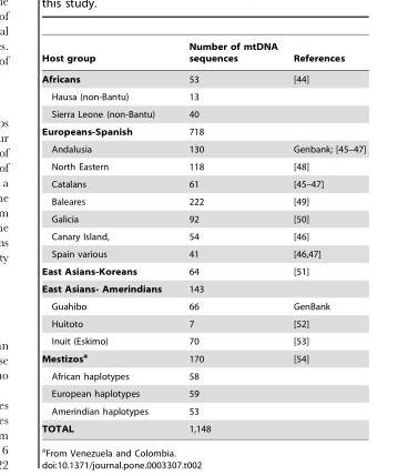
<table><thead><tr><td>Host group</td><td>Number of mtDNA sequences</td><td>References</td></tr></thead><tbody><tr><td>Africans</td><td>53</td><td>[44]</td></tr><tr><td>Hausa (non-Bantu)</td><td>13</td><td></td></tr><tr><td>Sierra Leone (non-Bantu)</td><td>40</td><td></td></tr><tr><td>Europeans-Spanish</td><td>718</td><td></td></tr><tr><td>Andalusia</td><td>130</td><td>Genbank; [45–47]</td></tr><tr><td>North Eastern</td><td>118</td><td>[48]</td></tr><tr><td>Catalans</td><td>61</td><td>[45–47]</td></tr><tr><td>Baleares</td><td>222</td><td>[49]</td></tr><tr><td>Galicia</td><td>92</td><td>[50]</td></tr><tr><td>Canary Island,</td><td>54</td><td>[46]</td></tr><tr><td>Spain various</td><td>41</td><td>[46,47]</td></tr><tr><td>East Asians-Koreans</td><td>64</td><td>[51]</td></tr><tr><td>East Asians- Amerindians</td><td>143</td><td></td></tr><tr><td>Guahibo</td><td>66</td><td>GenBank</td></tr><tr><td>Huitoto</td><td>7</td><td>[52]</td></tr><tr><td>Inuit (Eskimo)</td><td>70</td><td>[53]</td></tr><tr><td>Mestizosa</td><td>170</td><td>[54]</td></tr><tr><td>African haplotypes</td><td>58</td><td></td></tr><tr><td>European haplotypes</td><td>59</td><td></td></tr><tr><td>Amerindian haplotypes</td><td>53</td><td></td></tr><tr><td>TOTAL</td><td>1,148</td><td></td></tr></tbody></table>